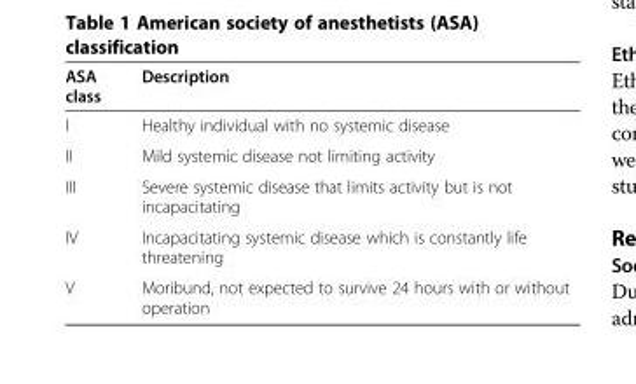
<table><thead><tr><td>ASA class</td><td>Description</td></tr></thead><tbody><tr><td>I</td><td>Healthy individual with no systemic disease</td></tr><tr><td>II</td><td>Mild systemic disease not limiting activity</td></tr><tr><td>III</td><td>Severe systemic disease that limits activity but is not incapacitating</td></tr><tr><td>IV</td><td>Incapacitating systemic disease which is constantly life threatening</td></tr><tr><td>V</td><td>Moribund, not expected to survive 24 hours with or without operation</td></tr></tbody></table>